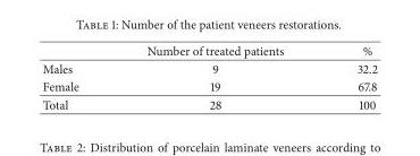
<table><thead><tr><td></td><td>Number of treated patients</td><td>%</td></tr></thead><tbody><tr><td>Males</td><td>9</td><td>32.2</td></tr><tr><td>Female</td><td>19</td><td>67.8</td></tr><tr><td>Total</td><td>28</td><td>100</td></tr></tbody></table>